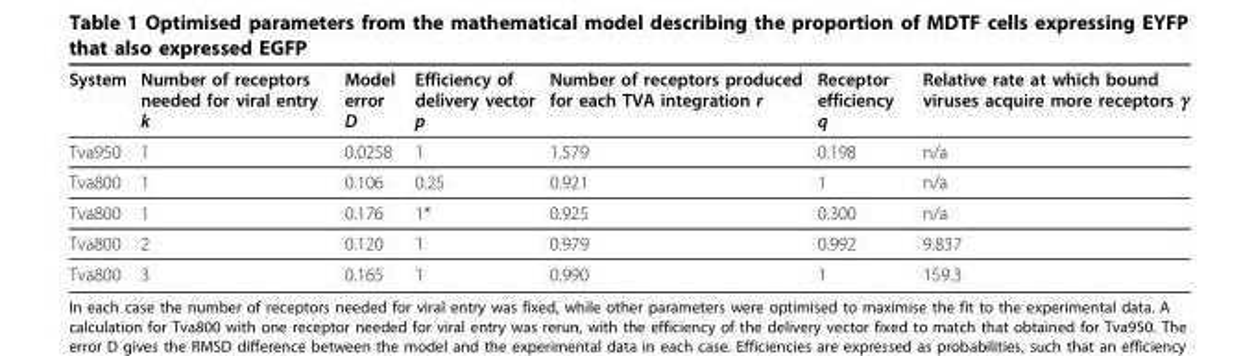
<table><thead><tr><td>System</td><td>Number of receptors needed for viral entry k</td><td>Model error D</td><td>Efficiency of delivery vector p</td><td>Number of receptors produced for each TVA integration r</td><td>Receptor efficiency q</td><td>Relative rate at which bound viruses acquire more receptors</td></tr></thead><tbody><tr><td>Tva950</td><td>1</td><td>0.0258</td><td>1</td><td>1.579</td><td>0.198</td><td>n/a</td></tr><tr><td>Tva800</td><td>1</td><td>0.106</td><td>0.25</td><td>0.921</td><td>1</td><td>n/a</td></tr><tr><td>Tva800</td><td>1</td><td>0.176</td><td>1*</td><td>0.925</td><td>0.300</td><td>n/a</td></tr><tr><td>Tva800</td><td>2</td><td>0.120</td><td>1</td><td>0.979</td><td>0.992</td><td>9.837</td></tr><tr><td>Tva800</td><td>3</td><td>0.165</td><td>1</td><td>0.990</td><td>1</td><td>159.3</td></tr></tbody></table>